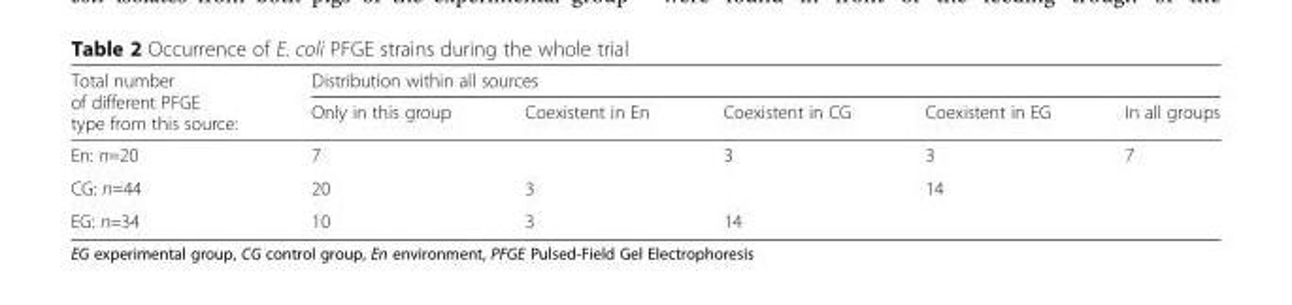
<table><thead><tr><td rowspan="2">Total number of different PFGE type from this source:</td><td colspan="5">Distribution within all sources</td></tr><tr><td>Only in this group</td><td>Coexistent in En</td><td>Coexistent in CG</td><td>Coexistent in EG</td><td>In all groups</td></tr></thead><tbody><tr><td>En: n=20</td><td>7</td><td></td><td>3</td><td>3</td><td rowspan="3">7</td></tr><tr><td>CG: n=44</td><td>20</td><td>3</td><td></td><td>14</td></tr><tr><td>EG: n=34</td><td>10</td><td>3</td><td>14</td><td></td></tr></tbody></table>